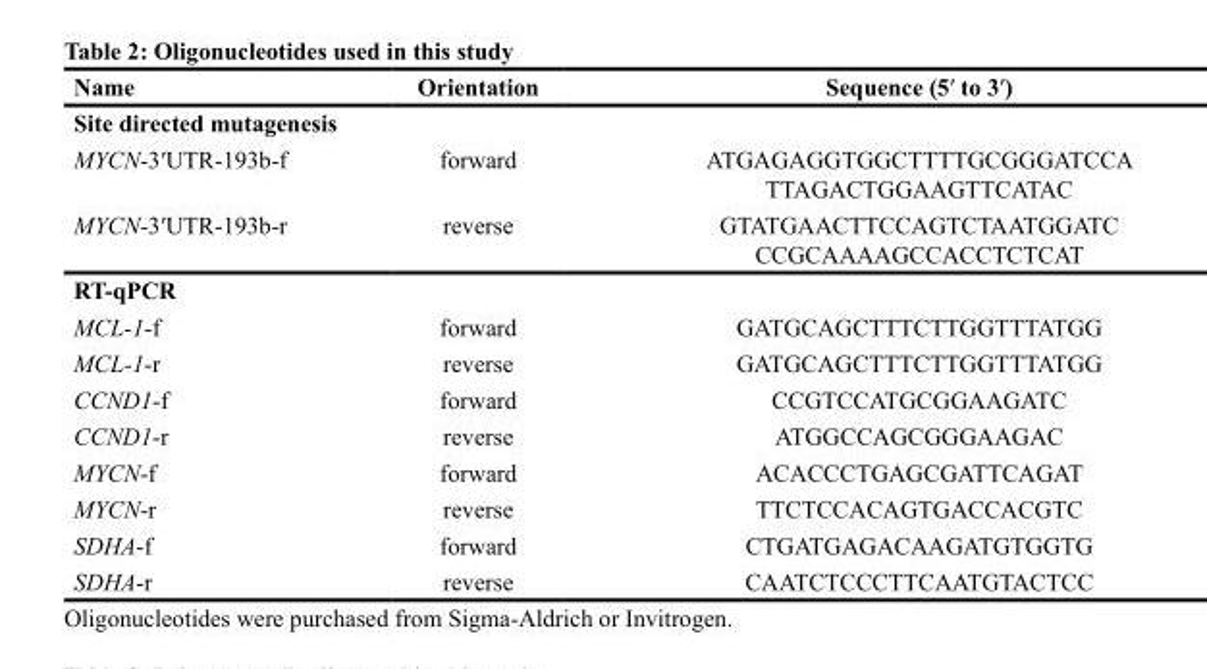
<table><thead><tr><td>Name</td><td>Orientation</td><td>Sequence (5′ to 3′)</td></tr></thead><tbody><tr><td colspan="3">Site directed mutagenesis</td></tr><tr><td>MYCN-3′UTR-193b-f</td><td>forward</td><td>ATGAGAGGTGGCTTTTGCGGGATCCA TTAGACTGGAAGTTCATAC</td></tr><tr><td>MYCN-3′UTR-193b-r</td><td>reverse</td><td>GTATGAACTTCCAGTCTAATGGATC CCGCAAAAGCCACCTCTCAT</td></tr><tr><td colspan="3">RT-qPCR</td></tr><tr><td>MCL-1-f</td><td>forward</td><td>GATGCAGCTTTCTTGGTTTATGG</td></tr><tr><td>MCL-1-r</td><td>reverse</td><td>GATGCAGCTTTCTTGGTTTATGG</td></tr><tr><td>CCND1-f</td><td>forward</td><td>CCGTCCATGCGGAAGATC</td></tr><tr><td>CCND1-r</td><td>reverse</td><td>ATGGCCAGCGGGAAGAC</td></tr><tr><td>MYCN-f</td><td>forward</td><td>ACACCCTGAGCGATTCAGAT</td></tr><tr><td>MYCN-r</td><td>reverse</td><td>TTCTCCACAGTGACCACGTC</td></tr><tr><td>SDHA-f</td><td>forward</td><td>CTGATGAGACAAGATGTGGTG</td></tr><tr><td>SDHA-r</td><td>reverse</td><td>CAATCTCCCTTCAATGTACTCC</td></tr></tbody></table>